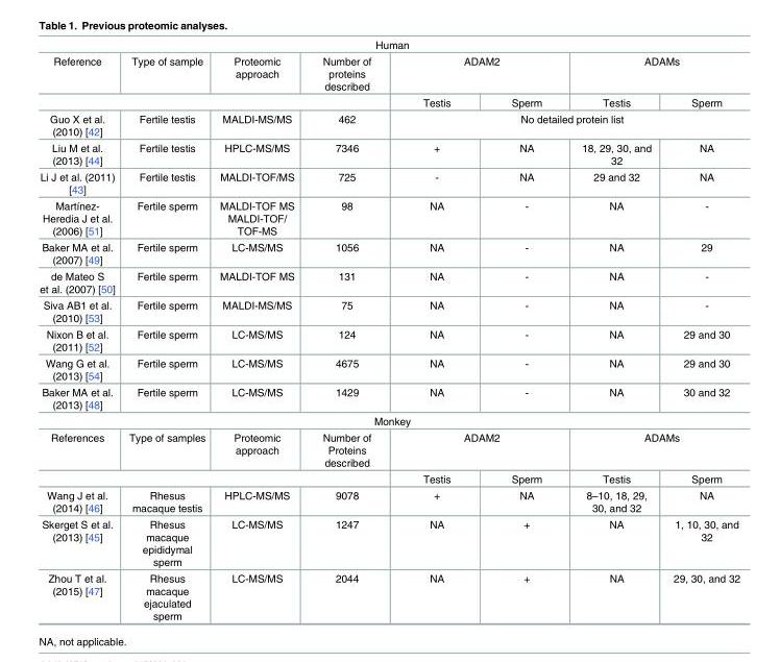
<table><tbody><tr><td colspan="8">Human</td></tr><tr><td>Reference</td><td>Type of sample</td><td>Proteomic approach</td><td>Number of proteins described</td><td colspan="2">ADAM2</td><td colspan="2">ADAMs</td></tr><tr><td colspan="4"></td><td>Testis</td><td>Sperm</td><td>Testis</td><td>Sperm</td></tr><tr><td>Guo X et al. (2010) [42]</td><td>Fertile testis</td><td>MALDI-MS/MS</td><td>462</td><td colspan="4">No detailed protein list</td></tr><tr><td>Liu M et al. (2013) [44]</td><td>Fertile testis</td><td>HPLC-MS/MS</td><td>7346</td><td>+</td><td>NA</td><td>18, 29, 30, and 32</td><td>NA</td></tr><tr><td>Li J et al. (2011) [43]</td><td>Fertile testis</td><td>MALDI-TOF/MS</td><td>725</td><td>-</td><td>NA</td><td>29 and 32</td><td>NA</td></tr><tr><td>Martínez- Heredia J et al. (2006) [51]</td><td>Fertile sperm</td><td>MALDI-TOF MS MALDI-TOF/ TOF-MS</td><td>98</td><td>NA</td><td>-</td><td>NA</td><td>-</td></tr><tr><td>Baker MA et al. (2007) [49]</td><td>Fertile sperm</td><td>LC-MS/MS</td><td>1056</td><td>NA</td><td>-</td><td>NA</td><td>29</td></tr><tr><td>de Mateo S et al. (2007) [50]</td><td>Fertile sperm</td><td>MALDI-TOF MS</td><td>131</td><td>NA</td><td>-</td><td>NA</td><td>-</td></tr><tr><td>Siva AB1 et al. (2010) [53]</td><td>Fertile sperm</td><td>MALDI-MS/MS</td><td>75</td><td>NA</td><td>-</td><td>NA</td><td>-</td></tr><tr><td>Nixon B et al. (2011) [52]</td><td>Fertile sperm</td><td>LC-MS/MS</td><td>124</td><td>NA</td><td>-</td><td>NA</td><td>29 and 30</td></tr><tr><td>Wang G et al. (2013) [54]</td><td>Fertile sperm</td><td>LC-MS/MS</td><td>4675</td><td>NA</td><td>-</td><td>NA</td><td>29 and 30</td></tr><tr><td>Baker MA et al. (2013) [48]</td><td>Fertile sperm</td><td>LC-MS/MS</td><td>1429</td><td>NA</td><td>-</td><td>NA</td><td>30 and 32</td></tr><tr><td colspan="8">Monkey</td></tr><tr><td>References</td><td>Type of samples</td><td>Proteomic approach</td><td>Number of Proteins described</td><td colspan="2">ADAM2</td><td colspan="2">ADAMs</td></tr><tr><td colspan="4"></td><td>Testis</td><td>Sperm</td><td>Testis</td><td>Sperm</td></tr><tr><td>Wang J et al. (2014) [46]</td><td>Rhesus macaque testis</td><td>HPLC-MS/MS</td><td>9078</td><td>+</td><td>NA</td><td>8–10, 18, 29, 30, and 32</td><td>NA</td></tr><tr><td>Skerget S et al. (2013) [45]</td><td>Rhesus macaque epididymal sperm</td><td>LC-MS/MS</td><td>1247</td><td>NA</td><td>+</td><td>NA</td><td>1, 10, 30, and 32</td></tr><tr><td>Zhou T et al. (2015) [47]</td><td>Rhesus macaque ejaculated sperm</td><td>LC-MS/MS</td><td>2044</td><td>NA</td><td>+</td><td>NA</td><td>29, 30, and 32</td></tr></tbody></table>